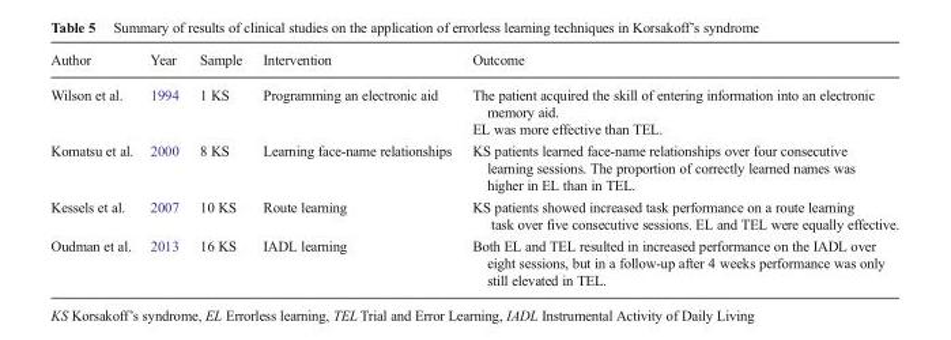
<table><thead><tr><td>Author</td><td>Year</td><td>Sample</td><td>Intervention</td><td>Outcome</td></tr></thead><tbody><tr><td>Wilson et al.</td><td>1994</td><td>1 KS</td><td>Programming an electronic aid</td><td>The patient acquired the skill of entering information into an electronic memory aid. EL was more effective than TEL.</td></tr><tr><td>Komatsu et al.</td><td>2000</td><td>8 KS</td><td>Learning face-name relationships</td><td>KS patients learned face-name relationships over four consecutive learning sessions. The proportion of correctly learned names was higher in EL than in TEL.</td></tr><tr><td>Kessels et al.</td><td>2007</td><td>10 KS</td><td>Route learning</td><td>KS patients showed increased task performance on a route learning task over five consecutive sessions. EL and TEL were equally effective.</td></tr><tr><td>Oudman et al.</td><td>2013</td><td>16 KS</td><td>IADL learning</td><td>Both EL and TEL resulted in increased performance on the IADL over eight sessions, but in a follow-up after 4 weeks performance was only still elevated in TEL.</td></tr></tbody></table>